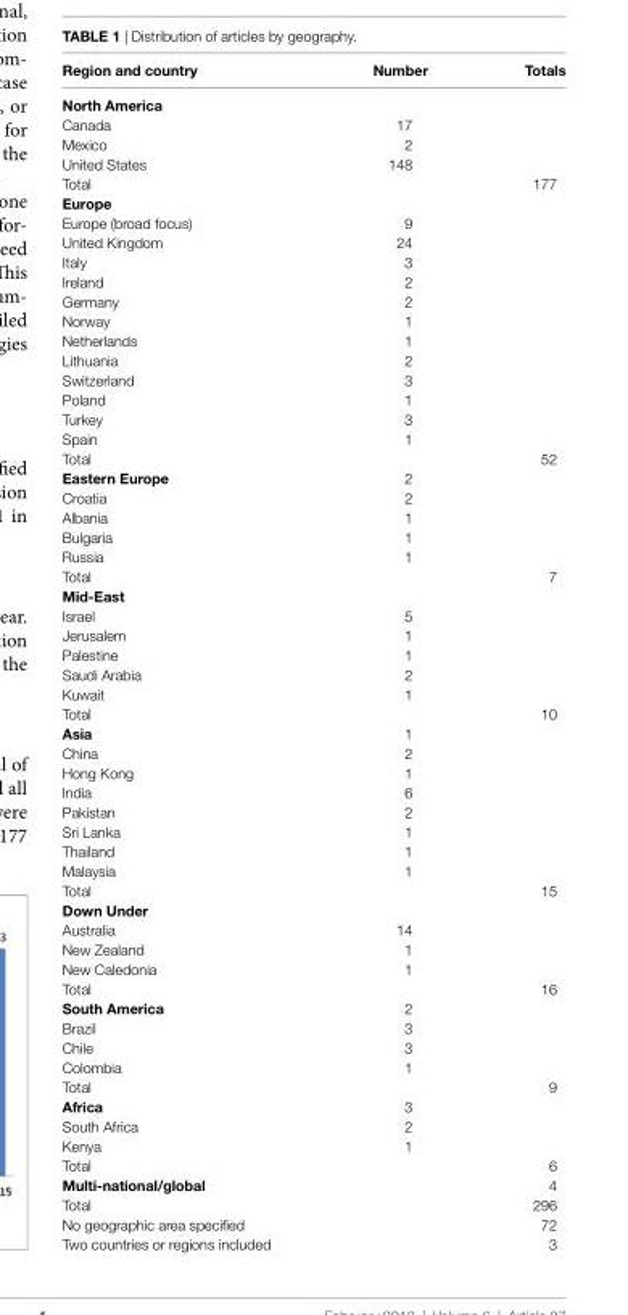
<table><thead><tr><td>region and country</td><td>number</td><td>Totals</td></tr></thead><tbody><tr><td colspan="3">north america</td></tr><tr><td>Canada</td><td>17</td><td></td></tr><tr><td>Mexico</td><td>2</td><td></td></tr><tr><td>United States</td><td>148</td><td></td></tr><tr><td>Total</td><td></td><td>177</td></tr><tr><td colspan="3">europe</td></tr><tr><td>Europe (broad focus)</td><td>9</td><td></td></tr><tr><td>United Kingdom</td><td>24</td><td></td></tr><tr><td>Italy</td><td>3</td><td></td></tr><tr><td>Ireland</td><td>2</td><td></td></tr><tr><td>Germany</td><td>2</td><td></td></tr><tr><td>Norway</td><td>1</td><td></td></tr><tr><td>Netherlands</td><td>1</td><td></td></tr><tr><td>Lithuania</td><td>2</td><td></td></tr><tr><td>Switzerland</td><td>3</td><td></td></tr><tr><td>Poland</td><td>1</td><td></td></tr><tr><td>Turkey</td><td>3</td><td></td></tr><tr><td>Spain</td><td>1</td><td></td></tr><tr><td>Total</td><td></td><td>52</td></tr><tr><td>eastern europe</td><td>2</td><td></td></tr><tr><td>Croatia</td><td>2</td><td></td></tr><tr><td>Albania</td><td>1</td><td></td></tr><tr><td>Bulgaria</td><td>1</td><td></td></tr><tr><td>Russia</td><td>1</td><td></td></tr><tr><td>Total</td><td></td><td>7</td></tr><tr><td colspan="3">Mid-east</td></tr><tr><td>Israel</td><td>5</td><td></td></tr><tr><td>Jerusalem</td><td>1</td><td></td></tr><tr><td>Palestine</td><td>1</td><td></td></tr><tr><td>Saudi Arabia</td><td>2</td><td></td></tr><tr><td>Kuwait</td><td>1</td><td></td></tr><tr><td>Total</td><td></td><td>10</td></tr><tr><td>asia</td><td>1</td><td></td></tr><tr><td>China</td><td>2</td><td></td></tr><tr><td>Hong Kong</td><td>1</td><td></td></tr><tr><td>India</td><td>6</td><td></td></tr><tr><td>Pakistan</td><td>2</td><td></td></tr><tr><td>Sri Lanka</td><td>1</td><td></td></tr><tr><td>Thailand</td><td>1</td><td></td></tr><tr><td>Malaysia</td><td>1</td><td></td></tr><tr><td>Total</td><td></td><td>15</td></tr><tr><td colspan="3">Down Under</td></tr><tr><td>Australia</td><td>14</td><td></td></tr><tr><td>New Zealand</td><td>1</td><td></td></tr><tr><td>New Caledonia</td><td>1</td><td></td></tr><tr><td>Total</td><td></td><td>16</td></tr><tr><td>south america</td><td>2</td><td></td></tr><tr><td>Brazil</td><td>3</td><td></td></tr><tr><td>Chile</td><td>3</td><td></td></tr><tr><td>Colombia</td><td>1</td><td></td></tr><tr><td>Total</td><td></td><td>9</td></tr><tr><td>africa</td><td>3</td><td></td></tr><tr><td>South Africa</td><td>2</td><td></td></tr><tr><td>Kenya</td><td>1</td><td></td></tr><tr><td>Total</td><td></td><td>6</td></tr><tr><td>Multi-national/global</td><td></td><td>4</td></tr><tr><td>Total</td><td></td><td>296</td></tr><tr><td>No geographic area specified</td><td></td><td>72</td></tr><tr><td>Two countries or regions included</td><td></td><td>3</td></tr></tbody></table>